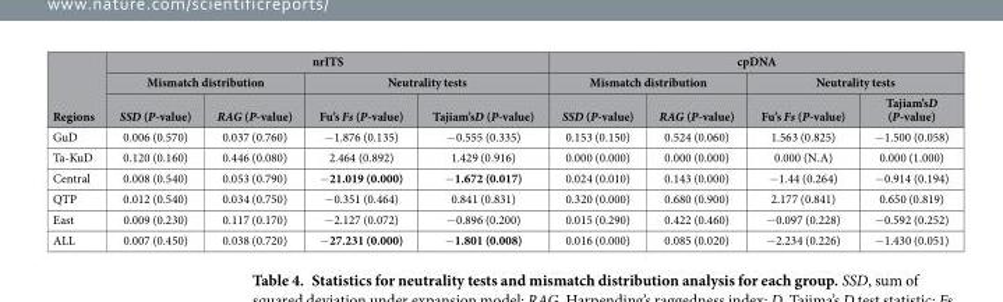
<table><thead><tr><td rowspan="3">Regions</td><td colspan="4">nrITS</td><td colspan="4">cpDNA</td></tr><tr><td colspan="2">Mismatch distribution</td><td colspan="2">Neutrality tests</td><td colspan="2">Mismatch distribution</td><td colspan="2">Neutrality tests</td></tr><tr><td>SSD (P-value)</td><td>RAG (P-value)</td><td>Fu’s Fs (P-value)</td><td>Tajiam’sD (P-value)</td><td>SSD (P-value)</td><td>RAG (P-value)</td><td>Fu’s Fs (P-value)</td><td>Tajiam’sD (P-value)</td></tr></thead><tbody><tr><td>GuD</td><td>0.006 (0.570)</td><td>0.037 (0.760)</td><td>− 1.876 (0.135)</td><td>− 0.555 (0.335)</td><td>0.153 (0.150)</td><td>0.524 (0.060)</td><td>1.563 (0.825)</td><td>− 1.500 (0.058)</td></tr><tr><td>Ta-KuD</td><td>0.120 (0.160)</td><td>0.446 (0.080)</td><td>2.464 (0.892)</td><td>1.429 (0.916)</td><td>0.000 (0.000)</td><td>0.000 (0.000)</td><td>0.000 (N.A)</td><td>0.000 (1.000)</td></tr><tr><td>Central</td><td>0.008 (0.540)</td><td>0.053 (0.790)</td><td>− 21.019 (0.000)</td><td>− 1.672 (0.017)</td><td>0.024 (0.010)</td><td>0.143 (0.000)</td><td>− 1.44 (0.264)</td><td>− 0.914 (0.194)</td></tr><tr><td>QTP</td><td>0.012 (0.540)</td><td>0.034 (0.750)</td><td>− 0.351 (0.464)</td><td>0.841 (0.831)</td><td>0.320 (0.000)</td><td>0.680 (0.900)</td><td>2.177 (0.841)</td><td>0.650 (0.819)</td></tr><tr><td>East</td><td>0.009 (0.230)</td><td>0.117 (0.170)</td><td>− 2.127 (0.072)</td><td>− 0.896 (0.200)</td><td>0.015 (0.290)</td><td>0.422 (0.460)</td><td>− 0.097 (0.228)</td><td>− 0.592 (0.252)</td></tr><tr><td>ALL</td><td>0.007 (0.450)</td><td>0.038 (0.720)</td><td>− 27.231 (0.000)</td><td>− 1.801 (0.008)</td><td>0.016 (0.000)</td><td>0.085 (0.020)</td><td>− 2.234 (0.226)</td><td>− 1.430 (0.051)</td></tr></tbody></table>